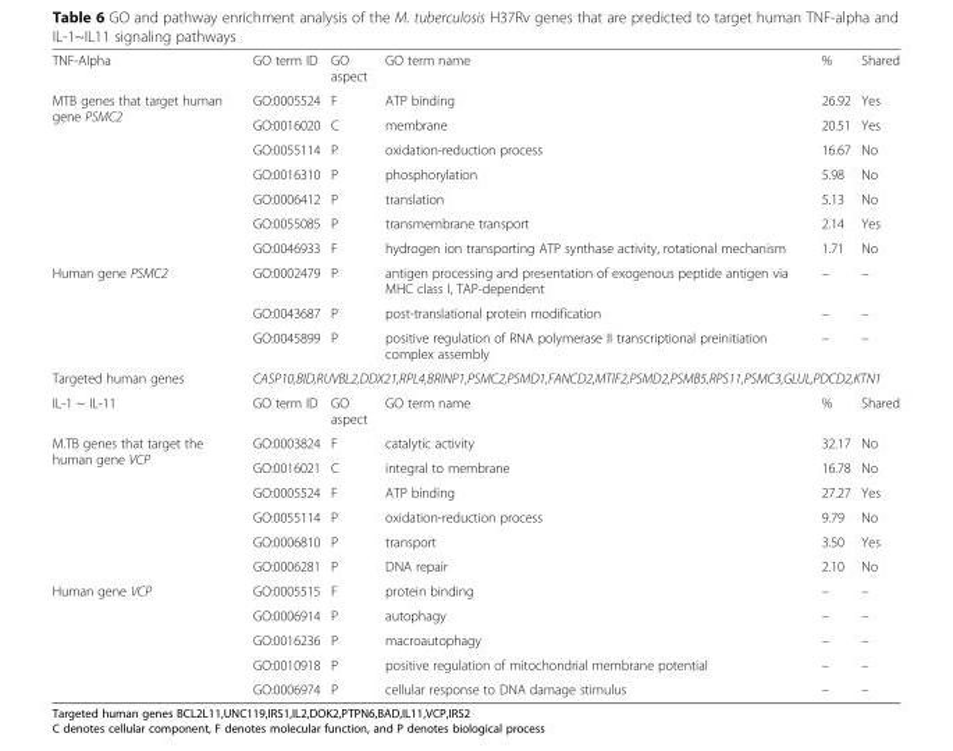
<table><tbody><tr><td>TNF-Alpha</td><td>GO term ID</td><td>GO aspect</td><td>GO term name</td><td>%</td><td>Shared</td></tr><tr><td rowspan="7">MTB genes that target human gene PSMC2</td><td>GO:0005524</td><td>F</td><td>ATP binding</td><td>26.92</td><td>Yes</td></tr><tr><td>GO:0016020</td><td>C</td><td>membrane</td><td>20.51</td><td>Yes</td></tr><tr><td>GO:0055114</td><td>P</td><td>oxidation-reduction process</td><td>16.67</td><td>No</td></tr><tr><td>GO:0016310</td><td>P</td><td>phosphorylation</td><td>5.98</td><td>No</td></tr><tr><td>GO:0006412</td><td>P</td><td>translation</td><td>5.13</td><td>No</td></tr><tr><td>GO:0055085</td><td>P</td><td>transmembrane transport</td><td>2.14</td><td>Yes</td></tr><tr><td>GO:0046933</td><td>F</td><td>hydrogen ion transporting ATP synthase activity, rotational mechanism</td><td>1.71</td><td>No</td></tr><tr><td rowspan="3">Human gene PSMC2</td><td>GO:0002479</td><td>P</td><td>antigen processing and presentation of exogenous peptide antigen via MHC class I, TAP-dependent</td><td>–</td><td>–</td></tr><tr><td>GO:0043687</td><td>P</td><td>post-translational protein modification</td><td>–</td><td>–</td></tr><tr><td>GO:0045899</td><td>P</td><td>positive regulation of RNA polymerase II transcriptional preinitiation complex assembly</td><td>–</td><td>–</td></tr><tr><td>Targeted human genes</td><td colspan="5">CASP10,BID,RUVBL2,DDX21,RPL4,BRINP1,PSMC2,PSMD1,FANCD2,MTIF2,PSMD2,PSMB5,RPS11,PSMC3,GLUL,PDCD2,KTN1</td></tr><tr><td>IL-1 ~ IL-11</td><td>GO term ID</td><td>GO aspect</td><td>GO term name</td><td>%</td><td>Shared</td></tr><tr><td rowspan="6">M.TB genes that target the human gene VCP</td><td>GO:0003824</td><td>F</td><td>catalytic activity</td><td>32.17</td><td>No</td></tr><tr><td>GO:0016021</td><td>C</td><td>integral to membrane</td><td>16.78</td><td>No</td></tr><tr><td>GO:0005524</td><td>F</td><td>ATP binding</td><td>27.27</td><td>Yes</td></tr><tr><td>GO:0055114</td><td>P</td><td>oxidation-reduction process</td><td>9.79</td><td>No</td></tr><tr><td>GO:0006810</td><td>P</td><td>transport</td><td>3.50</td><td>Yes</td></tr><tr><td>GO:0006281</td><td>P</td><td>DNA repair</td><td>2.10</td><td>No</td></tr><tr><td rowspan="5">Human gene VCP</td><td>GO:0005515</td><td>F</td><td>protein binding</td><td>–</td><td>–</td></tr><tr><td>GO:0006914</td><td>P</td><td>autophagy</td><td>–</td><td>–</td></tr><tr><td>GO:0016236</td><td>P</td><td>macroautophagy</td><td>–</td><td>–</td></tr><tr><td>GO:0010918</td><td>P</td><td>positive regulation of mitochondrial membrane potential</td><td>–</td><td>–</td></tr><tr><td>GO:0006974</td><td>P</td><td>cellular response to DNA damage stimulus</td><td>–</td><td>–</td></tr></tbody></table>